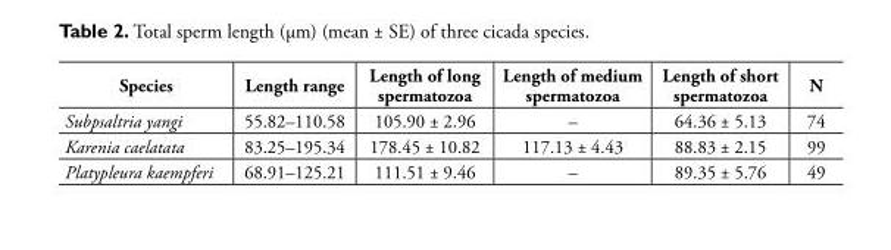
<table><tbody><tr><td>Species</td><td>Length range</td><td>Length of long spermatozoa</td><td>Length of medium spermatozoa</td><td>Length of short spermatozoa</td><td>N</td></tr><tr><td>Subpsaltria yangi</td><td>55.82–110.58</td><td>105.90 ± 2.96</td><td>–</td><td>64.36 ± 5.13</td><td>74</td></tr><tr><td>Karenia caelatata</td><td>83.25–195.34</td><td>178.45 ± 10.82</td><td>117.13 ± 4.43</td><td>88.83 ± 2.15</td><td>99</td></tr><tr><td>Platypleura kaempferi</td><td>68.91–125.21</td><td>111.51 ± 9.46</td><td>–</td><td>89.35 ± 5.76</td><td>49</td></tr></tbody></table>